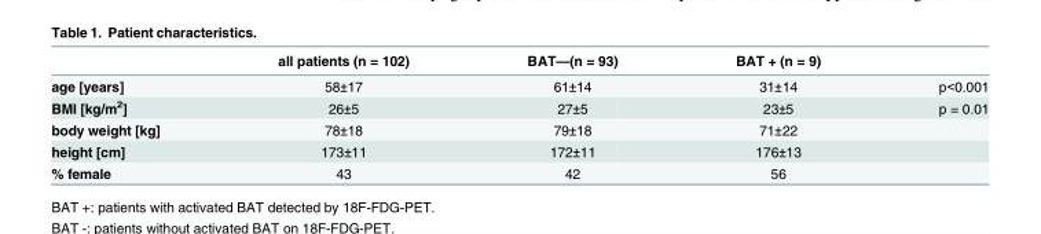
<table><thead><tr><td></td><td>all patients (n = 102)</td><td>BAT—(n = 93)</td><td>BAT + (n = 9)</td><td></td></tr></thead><tbody><tr><td>age [years]</td><td>58±17</td><td>61±14</td><td>31±14</td><td>p&lt;0.001</td></tr><tr><td>BMI [kg/m<sup>2</sup>]</td><td>26±5</td><td>27±5</td><td>23±5</td><td>p = 0.01</td></tr><tr><td>body weight [kg]</td><td>78±18</td><td>79±18</td><td>71±22</td><td></td></tr><tr><td>height [cm]</td><td>173±11</td><td>172±11</td><td>176±13</td><td></td></tr><tr><td>% female</td><td>43</td><td>42</td><td>56</td><td></td></tr></tbody></table>